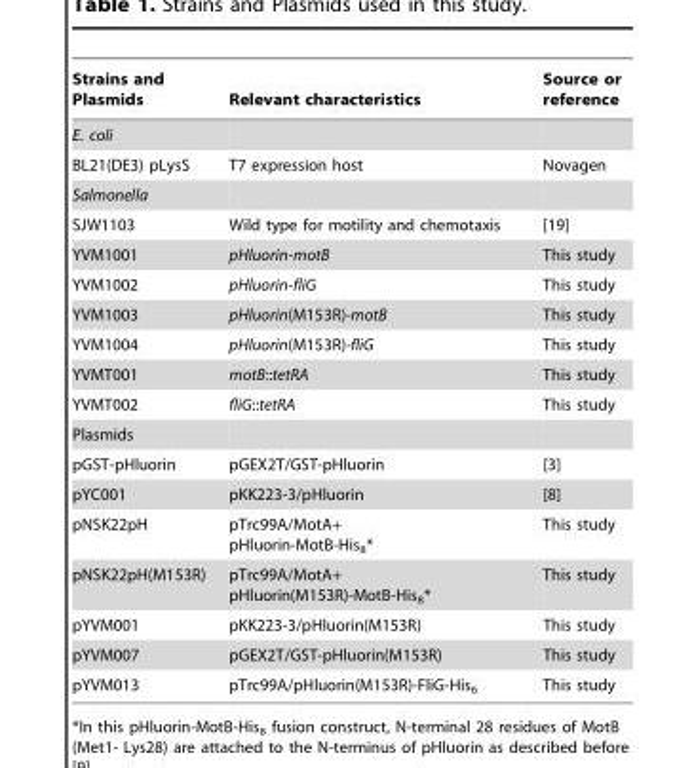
<table><thead><tr><td>Strains and Plasmids</td><td>Relevant characteristics</td><td>Source or reference</td></tr></thead><tbody><tr><td colspan="3">E. coli</td></tr><tr><td>BL21(DE3) pLysS</td><td>T7 expression host</td><td>Novagen</td></tr><tr><td colspan="3">Salmonella</td></tr><tr><td>SJW1103</td><td>Wild type for motility and chemotaxis</td><td>[19]</td></tr><tr><td>YVM1001</td><td>pHluorin-motB</td><td>This study</td></tr><tr><td>YVM1002</td><td>pHluorin-fliG</td><td>This study</td></tr><tr><td>YVM1003</td><td>pHluorin(M153R)-motB</td><td>This study</td></tr><tr><td>YVM1004</td><td>pHluorin(M153R)-fliG</td><td>This study</td></tr><tr><td>YVMT001</td><td>motB::tetRA</td><td>This study</td></tr><tr><td>YVMT002</td><td>fliG::tetRA</td><td>This study</td></tr><tr><td colspan="3">Plasmids</td></tr><tr><td>pGST-pHluorin</td><td>pGEX2T/GST-pHluorin</td><td>[3]</td></tr><tr><td>pYC001</td><td>pKK223-3/pHluorin</td><td>[8]</td></tr><tr><td>pNSK22pH</td><td>pTrc99A/MotA+ pHluorin-MotB-His<sub>8</sub>*</td><td>This study</td></tr><tr><td>pNSK22pH(M153R)</td><td>pTrc99A/MotA+ pHluorin(M153R)-MotB-His<sub>8</sub>*</td><td>This study</td></tr><tr><td>pYVM001</td><td>pKK223-3/pHluorin(M153R)</td><td>This study</td></tr><tr><td>pYVM007</td><td>pGEX2T/GST-pHluorin(M153R)</td><td>This study</td></tr><tr><td>pYVM013</td><td>pTrc99A/pHluorin(M153R)-FliG-His<sub>6</sub></td><td>This study</td></tr></tbody></table>